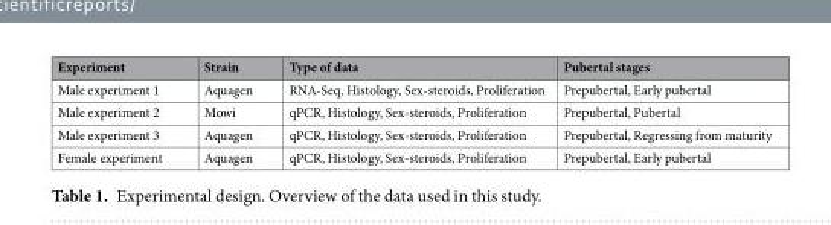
<table><thead><tr><td>Experiment</td><td>Strain</td><td>Type of data</td><td>Pubertal stages</td></tr></thead><tbody><tr><td>Male experiment 1</td><td>Aquagen</td><td>RNA-Seq, Histology, Sex-steroids, Proliferation</td><td>Prepubertal, Early pubertal</td></tr><tr><td>Male experiment 2</td><td>Mowi</td><td>qPCR, Histology, Sex-steroids, Proliferation</td><td>Prepubertal, Pubertal</td></tr><tr><td>Male experiment 3</td><td>Aquagen</td><td>qPCR, Histology, Sex-steroids, Proliferation</td><td>Prepubertal, Regressing from maturity</td></tr><tr><td>Female experiment</td><td>Aquagen</td><td>qPCR, Histology, Sex-steroids, Proliferation</td><td>Prepubertal, Early pubertal</td></tr></tbody></table>